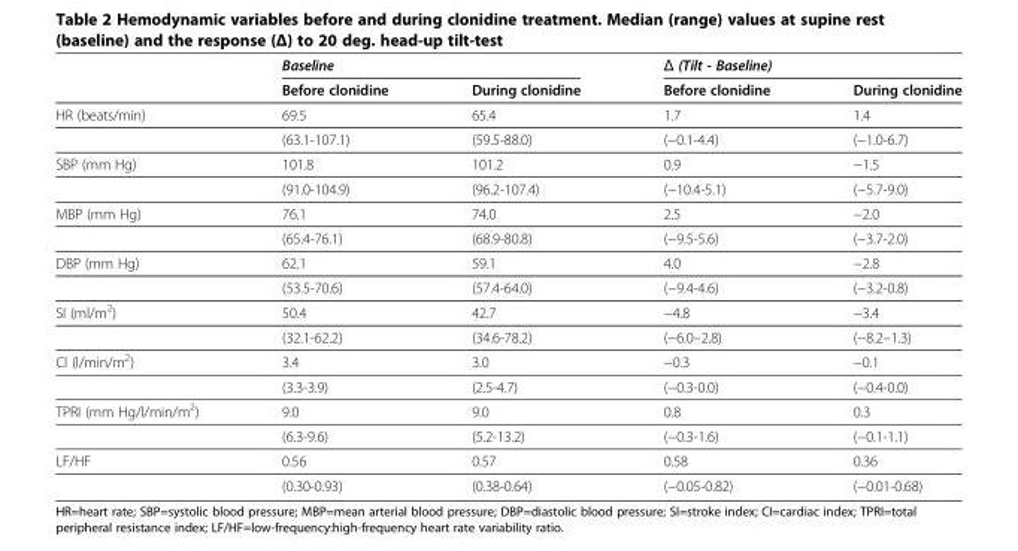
<table><thead><tr><td rowspan="2"></td><td colspan="2">Baseline</td><td colspan="2">Δ (Tilt - Baseline)</td></tr><tr><td>Before clonidine</td><td>During clonidine</td><td>Before clonidine</td><td>During clonidine</td></tr></thead><tbody><tr><td rowspan="2">HR (beats/min)</td><td>69.5</td><td>65.4</td><td>1.7</td><td>1.4</td></tr><tr><td>(63.1-107.1)</td><td>(59.5-88.0)</td><td>(−0.1-4.4)</td><td>(−1.0-6.7)</td></tr><tr><td rowspan="2">SBP (mm Hg)</td><td>101.8</td><td>101.2</td><td>0.9</td><td>−1.5</td></tr><tr><td>(91.0-104.9)</td><td>(96.2-107.4)</td><td>(−10.4-5.1)</td><td>(−5.7-9.0)</td></tr><tr><td rowspan="2">MBP (mm Hg)</td><td>76.1</td><td>74.0</td><td>2.5</td><td>−2.0</td></tr><tr><td>(65.4-76.1)</td><td>(68.9-80.8)</td><td>(−9.5-5.6)</td><td>(−3.7-2.0)</td></tr><tr><td rowspan="2">DBP (mm Hg)</td><td>62.1</td><td>59.1</td><td>4.0</td><td>−2.8</td></tr><tr><td>(53.5-70.6)</td><td>(57.4-64.0)</td><td>(−9.4-4.6)</td><td>(−3.2-0.8)</td></tr><tr><td rowspan="2">SI (ml/m<sup>2</sup>)</td><td>50.4</td><td>42.7</td><td>−4.8</td><td>−3.4</td></tr><tr><td>(32.1-62.2)</td><td>(34.6-78.2)</td><td>(−6.0–2.8)</td><td>(−8.2–1.3)</td></tr><tr><td rowspan="2">CI (l/min/m<sup>2</sup>)</td><td>3.4</td><td>3.0</td><td>−0.3</td><td>−0.1</td></tr><tr><td>(3.3-3.9)</td><td>(2.5-4.7)</td><td>(−0.3-0.0)</td><td>(−0.4-0.0)</td></tr><tr><td rowspan="2">TPRI (mm Hg/l/min/m<sup>2</sup>)</td><td>9.0</td><td>9.0</td><td>0.8</td><td>0.3</td></tr><tr><td>(6.3-9.6)</td><td>(5.2-13.2)</td><td>(−0.3-1.6)</td><td>(−0.1-1.1)</td></tr><tr><td rowspan="2">LF/HF</td><td>0.56</td><td>0.57</td><td>0.58</td><td>0.36</td></tr><tr><td>(0.30-0.93)</td><td>(0.38-0.64)</td><td>(−0.05-0.82)</td><td>(−0.01-0.68)</td></tr></tbody></table>